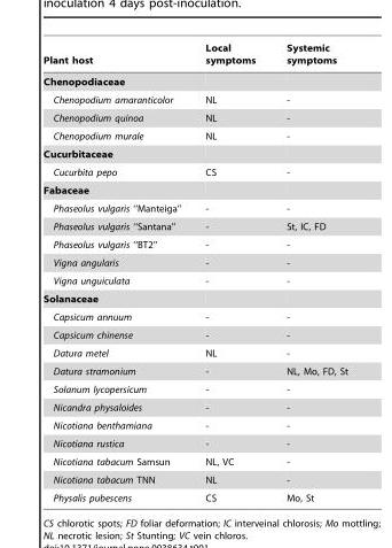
<table><thead><tr><td>Plant host</td><td>Local symptoms</td><td>Systemic symptoms</td></tr></thead><tbody><tr><td colspan="3">Chenopodiaceae</td></tr><tr><td>Chenopodium amaranticolor</td><td>NL</td><td>-</td></tr><tr><td>Chenopodium quinoa</td><td>NL</td><td>-</td></tr><tr><td>Chenopodium murale</td><td>NL</td><td>-</td></tr><tr><td colspan="3">Cucurbitaceae</td></tr><tr><td>Cucurbita pepo</td><td>CS</td><td>-</td></tr><tr><td colspan="3">Fabaceae</td></tr><tr><td>Phaseolus vulgaris ‘‘Manteiga’’</td><td>-</td><td>-</td></tr><tr><td>Phaseolus vulgaris ‘‘Santana’’</td><td>-</td><td>St, IC, FD</td></tr><tr><td>Phaseolus vulgaris ‘‘BT2’’</td><td>-</td><td>-</td></tr><tr><td>Vigna angularis</td><td>-</td><td>-</td></tr><tr><td>Vigna unguiculata</td><td>-</td><td>-</td></tr><tr><td colspan="3">Solanaceae</td></tr><tr><td>Capsicum annuum</td><td>-</td><td>-</td></tr><tr><td>Capsicum chinense</td><td>-</td><td>-</td></tr><tr><td>Datura metel</td><td>NL</td><td>-</td></tr><tr><td>Datura stramonium</td><td>-</td><td>NL, Mo, FD, St</td></tr><tr><td>Solanum lycopersicum</td><td>-</td><td>-</td></tr><tr><td>Nicandra physaloides</td><td>-</td><td>-</td></tr><tr><td>Nicotiana benthamiana</td><td>-</td><td>-</td></tr><tr><td>Nicotiana rustica</td><td>-</td><td>-</td></tr><tr><td>Nicotiana tabacum Samsun</td><td>NL, VC</td><td>-</td></tr><tr><td>Nicotiana tabacum TNN</td><td>NL</td><td>-</td></tr><tr><td>Physalis pubescens</td><td>CS</td><td>Mo, St</td></tr></tbody></table>